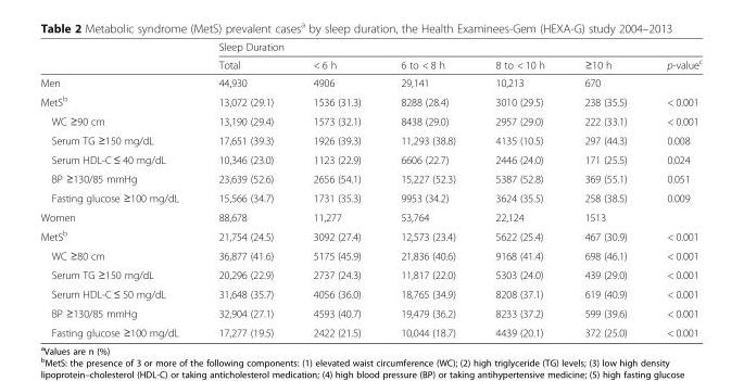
<table><thead><tr><td rowspan="2"></td><td colspan="6">Sleep Duration</td></tr><tr><td>Total</td><td>&lt; 6 h</td><td>6 to &lt; 8 h</td><td>8 to &lt; 10 h</td><td>≥10 h</td><td>p-value<sup>c</sup></td></tr></thead><tbody><tr><td>Men</td><td>44,930</td><td>4906</td><td>29,141</td><td>10,213</td><td>670</td><td></td></tr><tr><td>MetS<sup>b</sup></td><td>13,072 (29.1)</td><td>1536 (31.3)</td><td>8288 (28.4)</td><td>3010 (29.5)</td><td>238 (35.5)</td><td>&lt; 0.001</td></tr><tr><td>WC ≥90 cm</td><td>13,190 (29.4)</td><td>1573 (32.1)</td><td>8438 (29.0)</td><td>2957 (29.0)</td><td>222 (33.1)</td><td>&lt; 0.001</td></tr><tr><td>Serum TG ≥150 mg/dL</td><td>17,651 (39.3)</td><td>1926 (39.3)</td><td>11,293 (38.8)</td><td>4135 (10.5)</td><td>297 (44.3)</td><td>0.008</td></tr><tr><td>Serum HDL-C ≤ 40 mg/dL</td><td>10,346 (23.0)</td><td>1123 (22.9)</td><td>6606 (22.7)</td><td>2446 (24.0)</td><td>171 (25.5)</td><td>0.024</td></tr><tr><td>BP ≥130/85 mmHg</td><td>23,639 (52.6)</td><td>2656 (54.1)</td><td>15,227 (52.3)</td><td>5387 (52.8)</td><td>369 (55.1)</td><td>0.051</td></tr><tr><td>Fasting glucose ≥100 mg/dL</td><td>15,566 (34.7)</td><td>1731 (35.3)</td><td>9953 (34.2)</td><td>3624 (35.5)</td><td>258 (38.5)</td><td>0.009</td></tr><tr><td>Women</td><td>88,678</td><td>11,277</td><td>53,764</td><td>22,124</td><td>1513</td><td></td></tr><tr><td>MetS<sup>b</sup></td><td>21,754 (24.5)</td><td>3092 (27.4)</td><td>12,573 (23.4)</td><td>5622 (25.4)</td><td>467 (30.9)</td><td>&lt; 0.001</td></tr><tr><td>WC ≥80 cm</td><td>36,877 (41.6)</td><td>5175 (45.9)</td><td>21,836 (40.6)</td><td>9168 (41.4)</td><td>698 (46.1)</td><td>&lt; 0.001</td></tr><tr><td>Serum TG ≥150 mg/dL</td><td>20,296 (22.9)</td><td>2737 (24.3)</td><td>11,817 (22.0)</td><td>5303 (24.0)</td><td>439 (29.0)</td><td>&lt; 0.001</td></tr><tr><td>Serum HDL-C ≤ 50 mg/dL</td><td>31,648 (35.7)</td><td>4056 (36.0)</td><td>18,765 (34.9)</td><td>8208 (37.1)</td><td>619 (40.9)</td><td>&lt; 0.001</td></tr><tr><td>BP ≥130/85 mmHg</td><td>32,904 (27.1)</td><td>4593 (40.7)</td><td>19,479 (36.2)</td><td>8233 (37.2)</td><td>599 (39.6)</td><td>&lt; 0.001</td></tr><tr><td>Fasting glucose ≥100 mg/dL</td><td>17,277 (19.5)</td><td>2422 (21.5)</td><td>10,044 (18.7)</td><td>4439 (20.1)</td><td>372 (25.0)</td><td>&lt; 0.001</td></tr></tbody></table>